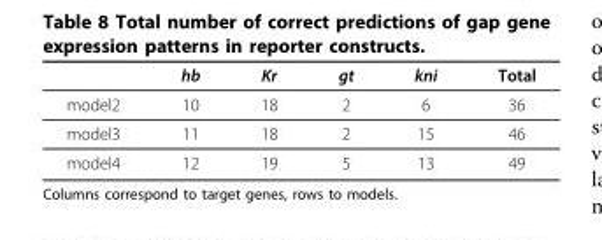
<table><thead><tr><td></td><td>hb</td><td>Kr</td><td>gt</td><td>kni</td><td>Total</td></tr></thead><tbody><tr><td>model2</td><td>10</td><td>18</td><td>2</td><td>6</td><td>36</td></tr><tr><td>model3</td><td>11</td><td>18</td><td>2</td><td>15</td><td>46</td></tr><tr><td>model4</td><td>12</td><td>19</td><td>5</td><td>13</td><td>49</td></tr></tbody></table>